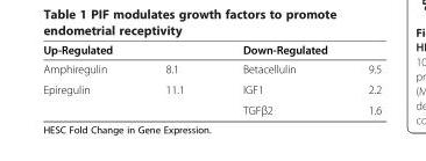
<table><thead><tr><td colspan="2">Up-Regulated</td><td colspan="2">Down-Regulated</td></tr><tr><td>Amphiregulin</td><td>8.1</td><td>Betacellulin</td><td>9.5</td></tr></thead><tbody><tr><td rowspan="2">Epiregulin</td><td>11.1</td><td>IGF1</td><td>2.2</td></tr><tr><td></td><td>TGFβ2</td><td>1.6</td></tr></tbody></table>